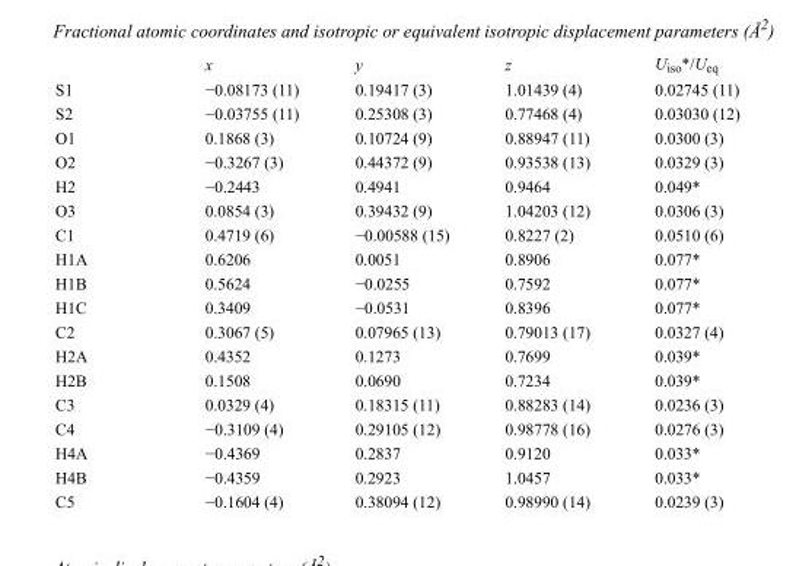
<table><thead><tr><td></td><td>x</td><td>y</td><td>z</td><td>U<sub>iso</sub>*/U<sub>eq</sub></td></tr></thead><tbody><tr><td>S1</td><td>−0.08173 (11)</td><td>0.19417 (3)</td><td>1.01439 (4)</td><td>0.02745 (11)</td></tr><tr><td>S2</td><td>−0.03755 (11)</td><td>0.25308 (3)</td><td>0.77468 (4)</td><td>0.03030 (12)</td></tr><tr><td>O1</td><td>0.1868 (3)</td><td>0.10724 (9)</td><td>0.88947 (11)</td><td>0.0300 (3)</td></tr><tr><td>O2</td><td>−0.3267 (3)</td><td>0.44372 (9)</td><td>0.93538 (13)</td><td>0.0329 (3)</td></tr><tr><td>H2</td><td>−0.2443</td><td>0.4941</td><td>0.9464</td><td>0.049*</td></tr><tr><td>O3</td><td>0.0854 (3)</td><td>0.39432 (9)</td><td>1.04203 (12)</td><td>0.0306 (3)</td></tr><tr><td>C1</td><td>0.4719 (6)</td><td>−0.00588 (15)</td><td>0.8227 (2)</td><td>0.0510 (6)</td></tr><tr><td>H1A</td><td>0.6206</td><td>0.0051</td><td>0.8906</td><td>0.077*</td></tr><tr><td>H1B</td><td>0.5624</td><td>−0.0255</td><td>0.7592</td><td>0.077*</td></tr><tr><td>H1C</td><td>0.3409</td><td>−0.0531</td><td>0.8396</td><td>0.077*</td></tr><tr><td>C2</td><td>0.3067 (5)</td><td>0.07965 (13)</td><td>0.79013 (17)</td><td>0.0327 (4)</td></tr><tr><td>H2A</td><td>0.4352</td><td>0.1273</td><td>0.7699</td><td>0.039*</td></tr><tr><td>H2B</td><td>0.1508</td><td>0.0690</td><td>0.7234</td><td>0.039*</td></tr><tr><td>C3</td><td>0.0329 (4)</td><td>0.18315 (11)</td><td>0.88283 (14)</td><td>0.0236 (3)</td></tr><tr><td>C4</td><td>−0.3109 (4)</td><td>0.29105 (12)</td><td>0.98778 (16)</td><td>0.0276 (3)</td></tr><tr><td>H4A</td><td>−0.4369</td><td>0.2837</td><td>0.9120</td><td>0.033*</td></tr><tr><td>H4B</td><td>−0.4359</td><td>0.2923</td><td>1.0457</td><td>0.033*</td></tr><tr><td>C5</td><td>−0.1604 (4)</td><td>0.38094 (12)</td><td>0.98990 (14)</td><td>0.0239 (3)</td></tr></tbody></table>